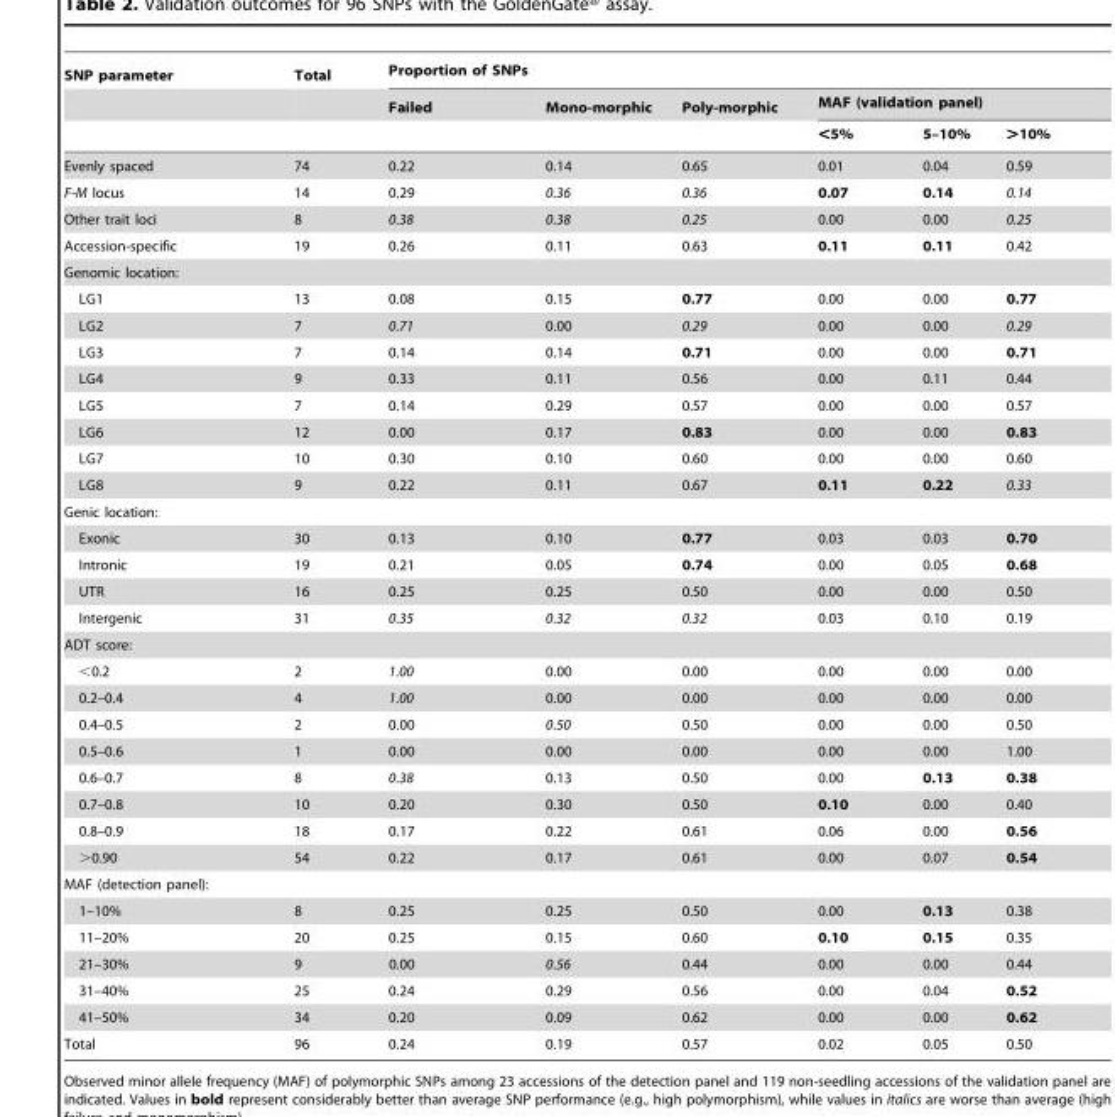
<table><thead><tr><td rowspan="3">SNP parameter</td><td rowspan="3">Total</td><td colspan="6">Proportion of SNPs</td></tr><tr><td rowspan="2">Failed</td><td rowspan="2">Mono-morphic</td><td rowspan="2">Poly-morphic</td><td colspan="3">MAF (validation panel)</td></tr><tr><td>&lt;5%</td><td>5–10%</td><td>&gt;10%</td></tr></thead><tbody><tr><td>Evenly spaced</td><td>74</td><td>0.22</td><td>0.14</td><td>0.65</td><td>0.01</td><td>0.04</td><td>0.59</td></tr><tr><td>F-M locus</td><td>14</td><td>0.29</td><td>0.36</td><td>0.36</td><td>0.07</td><td>0.14</td><td>0.14</td></tr><tr><td>Other trait loci</td><td>8</td><td>0.38</td><td>0.38</td><td>0.25</td><td>0.00</td><td>0.00</td><td>0.25</td></tr><tr><td>Accession-specific</td><td>19</td><td>0.26</td><td>0.11</td><td>0.63</td><td>0.11</td><td>0.11</td><td>0.42</td></tr><tr><td colspan="8">Genomic location:</td></tr><tr><td>LG1</td><td>13</td><td>0.08</td><td>0.15</td><td>0.77</td><td>0.00</td><td>0.00</td><td>0.77</td></tr><tr><td>LG2</td><td>7</td><td>0.71</td><td>0.00</td><td>0.29</td><td>0.00</td><td>0.00</td><td>0.29</td></tr><tr><td>LG3</td><td>7</td><td>0.14</td><td>0.14</td><td>0.71</td><td>0.00</td><td>0.00</td><td>0.71</td></tr><tr><td>LG4</td><td>9</td><td>0.33</td><td>0.11</td><td>0.56</td><td>0.00</td><td>0.11</td><td>0.44</td></tr><tr><td>LG5</td><td>7</td><td>0.14</td><td>0.29</td><td>0.57</td><td>0.00</td><td>0.00</td><td>0.57</td></tr><tr><td>LG6</td><td>12</td><td>0.00</td><td>0.17</td><td>0.83</td><td>0.00</td><td>0.00</td><td>0.83</td></tr><tr><td>LG7</td><td>10</td><td>0.30</td><td>0.10</td><td>0.60</td><td>0.00</td><td>0.00</td><td>0.60</td></tr><tr><td>LG8</td><td>9</td><td>0.22</td><td>0.11</td><td>0.67</td><td>0.11</td><td>0.22</td><td>0.33</td></tr><tr><td colspan="8">Genic location:</td></tr><tr><td>Exonic</td><td>30</td><td>0.13</td><td>0.10</td><td>0.77</td><td>0.03</td><td>0.03</td><td>0.70</td></tr><tr><td>Intronic</td><td>19</td><td>0.21</td><td>0.05</td><td>0.74</td><td>0.00</td><td>0.05</td><td>0.68</td></tr><tr><td>UTR</td><td>16</td><td>0.25</td><td>0.25</td><td>0.50</td><td>0.00</td><td>0.00</td><td>0.50</td></tr><tr><td>Intergenic</td><td>31</td><td>0.35</td><td>0.32</td><td>0.32</td><td>0.03</td><td>0.10</td><td>0.19</td></tr><tr><td colspan="8">ADT score:</td></tr><tr><td>&lt;0.2</td><td>2</td><td>1.00</td><td>0.00</td><td>0.00</td><td>0.00</td><td>0.00</td><td>0.00</td></tr><tr><td>0.2–0.4</td><td>4</td><td>1.00</td><td>0.00</td><td>0.00</td><td>0.00</td><td>0.00</td><td>0.00</td></tr><tr><td>0.4–0.5</td><td>2</td><td>0.00</td><td>0.50</td><td>0.50</td><td>0.00</td><td>0.00</td><td>0.50</td></tr><tr><td>0.5–0.6</td><td>1</td><td>0.00</td><td>0.00</td><td>0.00</td><td>0.00</td><td>0.00</td><td>1.00</td></tr><tr><td>0.6–0.7</td><td>8</td><td>0.38</td><td>0.13</td><td>0.50</td><td>0.00</td><td>0.13</td><td>0.38</td></tr><tr><td>0.7–0.8</td><td>10</td><td>0.20</td><td>0.30</td><td>0.50</td><td>0.10</td><td>0.00</td><td>0.40</td></tr><tr><td>0.8–0.9</td><td>18</td><td>0.17</td><td>0.22</td><td>0.61</td><td>0.06</td><td>0.00</td><td>0.56</td></tr><tr><td>&gt;0.90</td><td>54</td><td>0.22</td><td>0.17</td><td>0.61</td><td>0.00</td><td>0.07</td><td>0.54</td></tr><tr><td colspan="8">MAF (detection panel):</td></tr><tr><td>1–10%</td><td>8</td><td>0.25</td><td>0.25</td><td>0.50</td><td>0.00</td><td>0.13</td><td>0.38</td></tr><tr><td>11–20%</td><td>20</td><td>0.25</td><td>0.15</td><td>0.60</td><td>0.10</td><td>0.15</td><td>0.35</td></tr><tr><td>21–30%</td><td>9</td><td>0.00</td><td>0.56</td><td>0.44</td><td>0.00</td><td>0.00</td><td>0.44</td></tr><tr><td>31–40%</td><td>25</td><td>0.24</td><td>0.29</td><td>0.56</td><td>0.00</td><td>0.04</td><td>0.52</td></tr><tr><td>41–50%</td><td>34</td><td>0.20</td><td>0.09</td><td>0.62</td><td>0.00</td><td>0.00</td><td>0.62</td></tr><tr><td>Total</td><td>96</td><td>0.24</td><td>0.19</td><td>0.57</td><td>0.02</td><td>0.05</td><td>0.50</td></tr></tbody></table>